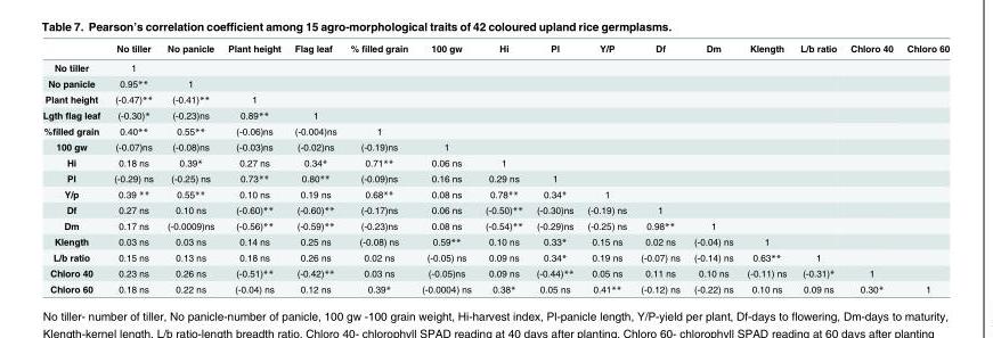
<table><thead><tr><td></td><td>No tiller</td><td>No panicle</td><td>Plant height</td><td>Flag leaf</td><td>% filled grain</td><td>100 gw</td><td>Hi</td><td>Pl</td><td>Y/P</td><td>Df</td><td>Dm</td><td>Klength</td><td>L/b ratio</td><td>Chloro 40</td><td>Chloro 60</td></tr></thead><tbody><tr><td>No tiller</td><td>1</td><td></td><td></td><td></td><td></td><td></td><td></td><td></td><td></td><td></td><td></td><td></td><td></td><td></td><td></td></tr><tr><td>No panicle</td><td>0.95**</td><td>1</td><td></td><td></td><td></td><td></td><td></td><td></td><td></td><td></td><td></td><td></td><td></td><td></td><td></td></tr><tr><td>Plant height</td><td>(-0.47)**</td><td>(-0.41)**</td><td>1</td><td></td><td></td><td></td><td></td><td></td><td></td><td></td><td></td><td></td><td></td><td></td><td></td></tr><tr><td>Lgth flag leaf</td><td>(-0.30)*</td><td>(-0.23)ns</td><td>0.89**</td><td>1</td><td></td><td></td><td></td><td></td><td></td><td></td><td></td><td></td><td></td><td></td><td></td></tr><tr><td>%filled grain</td><td>0.40**</td><td>0.55**</td><td>(-0.06)ns</td><td>(-0.004)ns</td><td>1</td><td></td><td></td><td></td><td></td><td></td><td></td><td></td><td></td><td></td><td></td></tr><tr><td>100 gw</td><td>(-0.07)ns</td><td>(-0.08)ns</td><td>(-0.03)ns</td><td>(-0.02)ns</td><td>(-0.19)ns</td><td>1</td><td></td><td></td><td></td><td></td><td></td><td></td><td></td><td></td><td></td></tr><tr><td>Hi</td><td>0.18 ns</td><td>0.39*</td><td>0.27 ns</td><td>0.34*</td><td>0.71**</td><td>0.06 ns</td><td>1</td><td></td><td></td><td></td><td></td><td></td><td></td><td></td><td></td></tr><tr><td>Pl</td><td>(-0.29) ns</td><td>(-0.25) ns</td><td>0.73**</td><td>0.80**</td><td>(-0.09)ns</td><td>0.16 ns</td><td>0.29 ns</td><td>1</td><td></td><td></td><td></td><td></td><td></td><td></td><td></td></tr><tr><td>Y/p</td><td>0.39 **</td><td>0.55**</td><td>0.10 ns</td><td>0.19 ns</td><td>0.68**</td><td>0.08 ns</td><td>0.78**</td><td>0.34*</td><td>1</td><td></td><td></td><td></td><td></td><td></td><td></td></tr><tr><td>Df</td><td>0.27 ns</td><td>0.10 ns</td><td>(-0.60)**</td><td>(-0.60)**</td><td>(-0.17)ns</td><td>0.06 ns</td><td>(-0.50)**</td><td>(-0.30)ns</td><td>(-0.19) ns</td><td>1</td><td></td><td></td><td></td><td></td><td></td></tr><tr><td>Dm</td><td>0.17 ns</td><td>(-0.0009)ns</td><td>(-0.56)**</td><td>(-0.59)**</td><td>(-0.23)ns</td><td>0.08 ns</td><td>(-0.54)**</td><td>(-0.29)ns</td><td>(-0.25) ns</td><td>0.98**</td><td>1</td><td></td><td></td><td></td><td></td></tr><tr><td>Klength</td><td>0.03 ns</td><td>0.03 ns</td><td>0.14 ns</td><td>0.25 ns</td><td>(-0.08) ns</td><td>0.59**</td><td>0.10 ns</td><td>0.33*</td><td>0.15 ns</td><td>0.02 ns</td><td>(-0.04) ns</td><td>1</td><td></td><td></td><td></td></tr><tr><td>L/b ratio</td><td>0.15 ns</td><td>0.13 ns</td><td>0.18 ns</td><td>0.26 ns</td><td>0.02 ns</td><td>(-0.05) ns</td><td>0.09 ns</td><td>0.34*</td><td>0.19 ns</td><td>(-0.07) ns</td><td>(-0.14) ns</td><td>0.63**</td><td>1</td><td></td><td></td></tr><tr><td>Chloro 40</td><td>0.23 ns</td><td>0.26 ns</td><td>(-0.51)**</td><td>(-0.42)**</td><td>0.03 ns</td><td>(-0.05)ns</td><td>0.09 ns</td><td>(-0.44)**</td><td>0.05 ns</td><td>0.11 ns</td><td>0.10 ns</td><td>(-0.11) ns</td><td>(-0.31)*</td><td>1</td><td></td></tr><tr><td>Chloro 60</td><td>0.18 ns</td><td>0.22 ns</td><td>(-0.04) ns</td><td>0.12 ns</td><td>0.39*</td><td>(-0.0004) ns</td><td>0.38*</td><td>0.05 ns</td><td>0.41**</td><td>(-0.12) ns</td><td>(-0.22) ns</td><td>0.10 ns</td><td>0.09 ns</td><td>0.30*</td><td>1</td></tr></tbody></table>